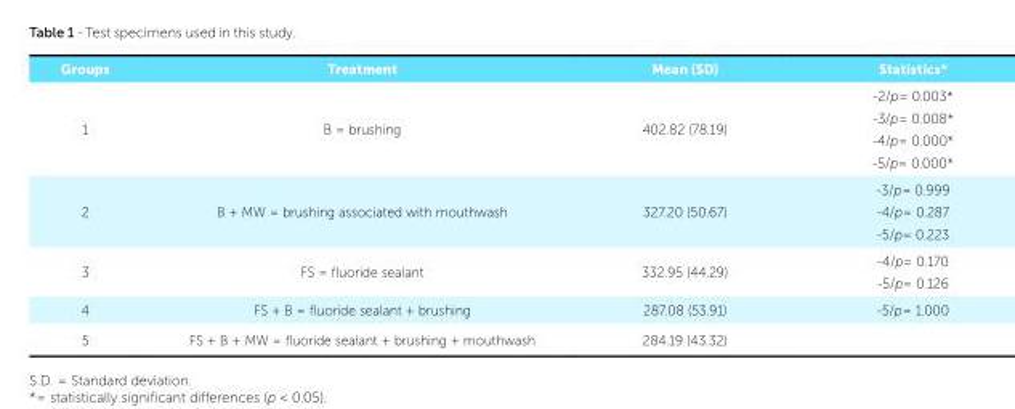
<table><thead><tr><td>Groups</td><td>Treatment</td><td>Mean (SD)</td><td>Statistics*</td></tr></thead><tbody><tr><td>1</td><td>B = brushing</td><td>402.82 (78.19)</td><td>-2/p= 0.003* -3/p= 0.008* -4/p= 0.000* -5/p= 0.000*</td></tr><tr><td>2</td><td>B + MW = brushing associated with mouthwash</td><td>327.20 (50.67)</td><td>-3/p= 0.999 -4/p= 0.287 -5/p= 0.223</td></tr><tr><td>3</td><td>FS = fluoride sealant</td><td>332.95 (44.29)</td><td>-4/p= 0.170 -5/p= 0.126</td></tr><tr><td>4</td><td>FS + B = fluoride sealant + brushing</td><td>287.08 (53.91)</td><td>-5/p= 1.000</td></tr><tr><td>5</td><td>FS + B + MW = fluoride sealant + brushing + mouthwash</td><td>284.19 (43.32)</td><td></td></tr></tbody></table>